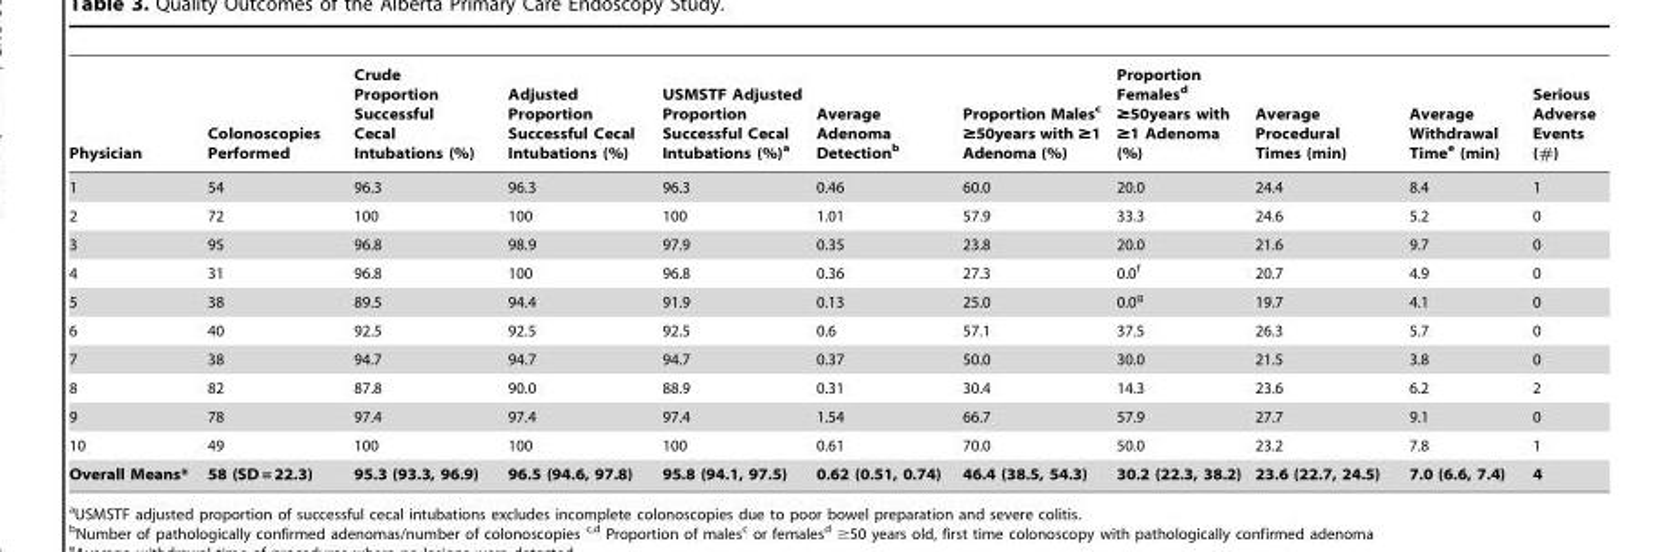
<table><thead><tr><td>Physician</td><td>Colonoscopies Performed</td><td>Crude Proportion Successful Cecal Intubations (%)</td><td>Adjusted Proportion Successful Cecal Intubations (%)</td><td>USMSTF Adjusted Proportion Successful Cecal Intubations (%)<sup>a</sup></td><td>Average Adenoma Detection<sup>b</sup></td><td>Proportion Males<sup>c</sup> ≥50years with ≥1 Adenoma (%)</td><td>Proportion Females<sup>d</sup> ≥50years with ≥1 Adenoma (%)</td><td>Average Procedural Times (min)</td><td>Average Withdrawal Time<sup>e</sup> (min)</td><td>Serious Adverse Events (#)</td></tr></thead><tbody><tr><td>1</td><td>54</td><td>96.3</td><td>96.3</td><td>96.3</td><td>0.46</td><td>60.0</td><td>20.0</td><td>24.4</td><td>8.4</td><td>1</td></tr><tr><td>2</td><td>72</td><td>100</td><td>100</td><td>100</td><td>1.01</td><td>57.9</td><td>33.3</td><td>24.6</td><td>5.2</td><td>0</td></tr><tr><td>3</td><td>95</td><td>96.8</td><td>98.9</td><td>97.9</td><td>0.35</td><td>23.8</td><td>20.0</td><td>21.6</td><td>9.7</td><td>0</td></tr><tr><td>4</td><td>31</td><td>96.8</td><td>100</td><td>96.8</td><td>0.36</td><td>27.3</td><td>0.0<sup>f</sup></td><td>20.7</td><td>4.9</td><td>0</td></tr><tr><td>5</td><td>38</td><td>89.5</td><td>94.4</td><td>91.9</td><td>0.13</td><td>25.0</td><td>0.0<sup>g</sup></td><td>19.7</td><td>4.1</td><td>0</td></tr><tr><td>6</td><td>40</td><td>92.5</td><td>92.5</td><td>92.5</td><td>0.6</td><td>57.1</td><td>37.5</td><td>26.3</td><td>5.7</td><td>0</td></tr><tr><td>7</td><td>38</td><td>94.7</td><td>94.7</td><td>94.7</td><td>0.37</td><td>50.0</td><td>30.0</td><td>21.5</td><td>3.8</td><td>0</td></tr><tr><td>8</td><td>82</td><td>87.8</td><td>90.0</td><td>88.9</td><td>0.31</td><td>30.4</td><td>14.3</td><td>23.6</td><td>6.2</td><td>2</td></tr><tr><td>9</td><td>78</td><td>97.4</td><td>97.4</td><td>97.4</td><td>1.54</td><td>66.7</td><td>57.9</td><td>27.7</td><td>9.1</td><td>0</td></tr><tr><td>10</td><td>49</td><td>100</td><td>100</td><td>100</td><td>0.61</td><td>70.0</td><td>50.0</td><td>23.2</td><td>7.8</td><td>1</td></tr><tr><td>Overall Means*</td><td>58 (SD = 22.3)</td><td>95.3 (93.3, 96.9)</td><td>96.5 (94.6, 97.8)</td><td>95.8 (94.1, 97.5)</td><td>0.62 (0.51, 0.74)</td><td>46.4 (38.5, 54.3)</td><td>30.2 (22.3, 38.2)</td><td>23.6 (22.7, 24.5)</td><td>7.0 (6.6, 7.4)</td><td>4</td></tr></tbody></table>